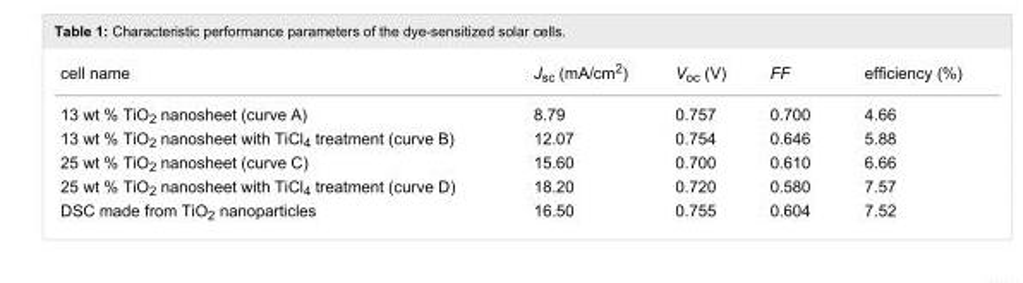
<table><tbody><tr><td>cell name</td><td>J<sub>sc</sub> (mA/cm<sup>2</sup>)</td><td>V<sub>oc</sub> (V)</td><td>FF</td><td>efficiency (%)</td></tr><tr><td>13 wt % TiO<sub>2</sub> nanosheet (curve A)</td><td>8.79</td><td>0.757</td><td>0.700</td><td>4.66</td></tr><tr><td>13 wt % TiO<sub>2</sub> nanosheet with TiCl<sub>4</sub> treatment (curve B)</td><td>12.07</td><td>0.754</td><td>0.646</td><td>5.88</td></tr><tr><td>25 wt % TiO<sub>2</sub> nanosheet (curve C)</td><td>15.60</td><td>0.700</td><td>0.610</td><td>6.66</td></tr><tr><td>25 wt % TiO<sub>2</sub> nanosheet with TiCl<sub>4</sub> treatment (curve D)</td><td>18.20</td><td>0.720</td><td>0.580</td><td>7.57</td></tr><tr><td>DSC made from TiO<sub>2</sub> nanoparticles</td><td>16.50</td><td>0.755</td><td>0.604</td><td>7.52</td></tr></tbody></table>